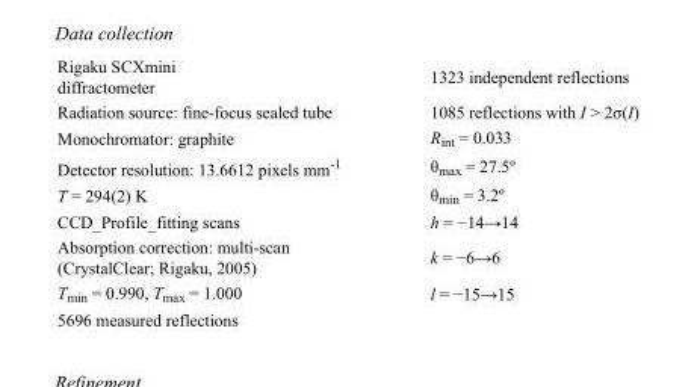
<table><tbody><tr><td>Rigaku SCXmini diffractometer</td><td>1323 independent reflections</td></tr><tr><td>Radiation source: fine-focus sealed tube</td><td>1085 reflections with I &gt; 2σ(I)</td></tr><tr><td>Monochromator: graphite</td><td>R<sub>int</sub> = 0.033</td></tr><tr><td>Detector resolution: 13.6612 pixels mm<sup>-1</sup></td><td>θ<sub>max</sub> = 27.5º</td></tr><tr><td>T = 294(2) K</td><td>θ<sub>min</sub> = 3.2º</td></tr><tr><td>CCD_Profile_fitting scans</td><td>h = −14→14</td></tr><tr><td>Absorption correction: multi-scan (CrystalClear; Rigaku, 2005)</td><td>k = −6→6</td></tr><tr><td>T<sub>min</sub> = 0.990, T<sub>max</sub> = 1.000</td><td>l = −15→15</td></tr><tr><td>5696 measured reflections</td><td></td></tr></tbody></table>